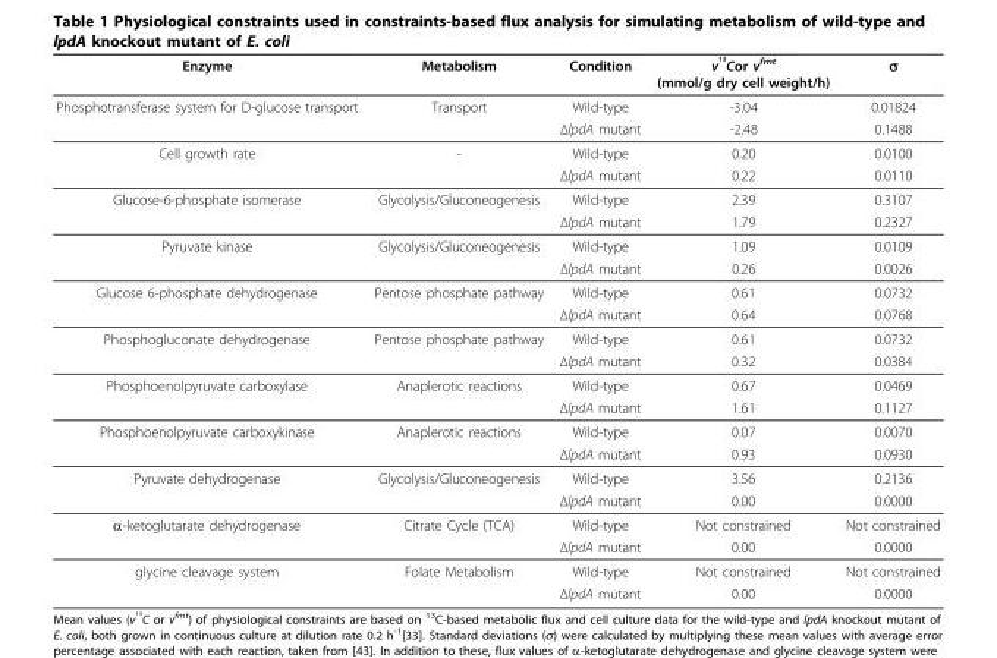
<table><thead><tr><td>Enzyme</td><td>Metabolism</td><td>Condition</td><td>v 13<sup>C</sup>or v<sup>fmt</sup> (mmol/g dry cell weight/h)</td><td>σ</td></tr></thead><tbody><tr><td rowspan="2">Phosphotransferase system for D-glucose transport</td><td>Transport</td><td>Wild-type</td><td>-3.04</td><td>0.01824</td></tr><tr><td></td><td>ΔlpdA mutant</td><td>-2.48</td><td>0.1488</td></tr><tr><td rowspan="2">Cell growth rate</td><td>-</td><td>Wild-type</td><td>0.20</td><td>0.0100</td></tr><tr><td></td><td>ΔlpdA mutant</td><td>0.22</td><td>0.0110</td></tr><tr><td rowspan="2">Glucose-6-phosphate isomerase</td><td>Glycolysis/Gluconeogenesis</td><td>Wild-type</td><td>2.39</td><td>0.3107</td></tr><tr><td></td><td>ΔlpdA mutant</td><td>1.79</td><td>0.2327</td></tr><tr><td rowspan="2">Pyruvate kinase</td><td>Glycolysis/Gluconeogenesis</td><td>Wild-type</td><td>1.09</td><td>0.0109</td></tr><tr><td></td><td>ΔlpdA mutant</td><td>0.26</td><td>0.0026</td></tr><tr><td rowspan="2">Glucose 6-phosphate dehydrogenase</td><td>Pentose phosphate pathway</td><td>Wild-type</td><td>0.61</td><td>0.0732</td></tr><tr><td></td><td>ΔlpdA mutant</td><td>0.64</td><td>0.0768</td></tr><tr><td rowspan="2">Phosphogluconate dehydrogenase</td><td>Pentose phosphate pathway</td><td>Wild-type</td><td>0.61</td><td>0.0732</td></tr><tr><td></td><td>ΔlpdA mutant</td><td>0.32</td><td>0.0384</td></tr><tr><td rowspan="2">Phosphoenolpyruvate carboxylase</td><td>Anaplerotic reactions</td><td>Wild-type</td><td>0.67</td><td>0.0469</td></tr><tr><td></td><td>ΔlpdA mutant</td><td>1.61</td><td>0.1127</td></tr><tr><td rowspan="2">Phosphoenolpyruvate carboxykinase</td><td>Anaplerotic reactions</td><td>Wild-type</td><td>0.07</td><td>0.0070</td></tr><tr><td></td><td>ΔlpdA mutant</td><td>0.93</td><td>0.0930</td></tr><tr><td rowspan="2">Pyruvate dehydrogenase</td><td>Glycolysis/Gluconeogenesis</td><td>Wild-type</td><td>3.56</td><td>0.2136</td></tr><tr><td></td><td>ΔlpdA mutant</td><td>0.00</td><td>0.0000</td></tr><tr><td rowspan="2">α-ketoglutarate dehydrogenase</td><td>Citrate Cycle (TCA)</td><td>Wild-type</td><td>Not constrained</td><td>Not constrained</td></tr><tr><td></td><td>ΔlpdA mutant</td><td>0.00</td><td>0.0000</td></tr><tr><td rowspan="2">glycine cleavage system</td><td>Folate Metabolism</td><td>Wild-type</td><td>Not constrained</td><td>Not constrained</td></tr><tr><td></td><td>ΔlpdA mutant</td><td>0.00</td><td>0.0000</td></tr></tbody></table>